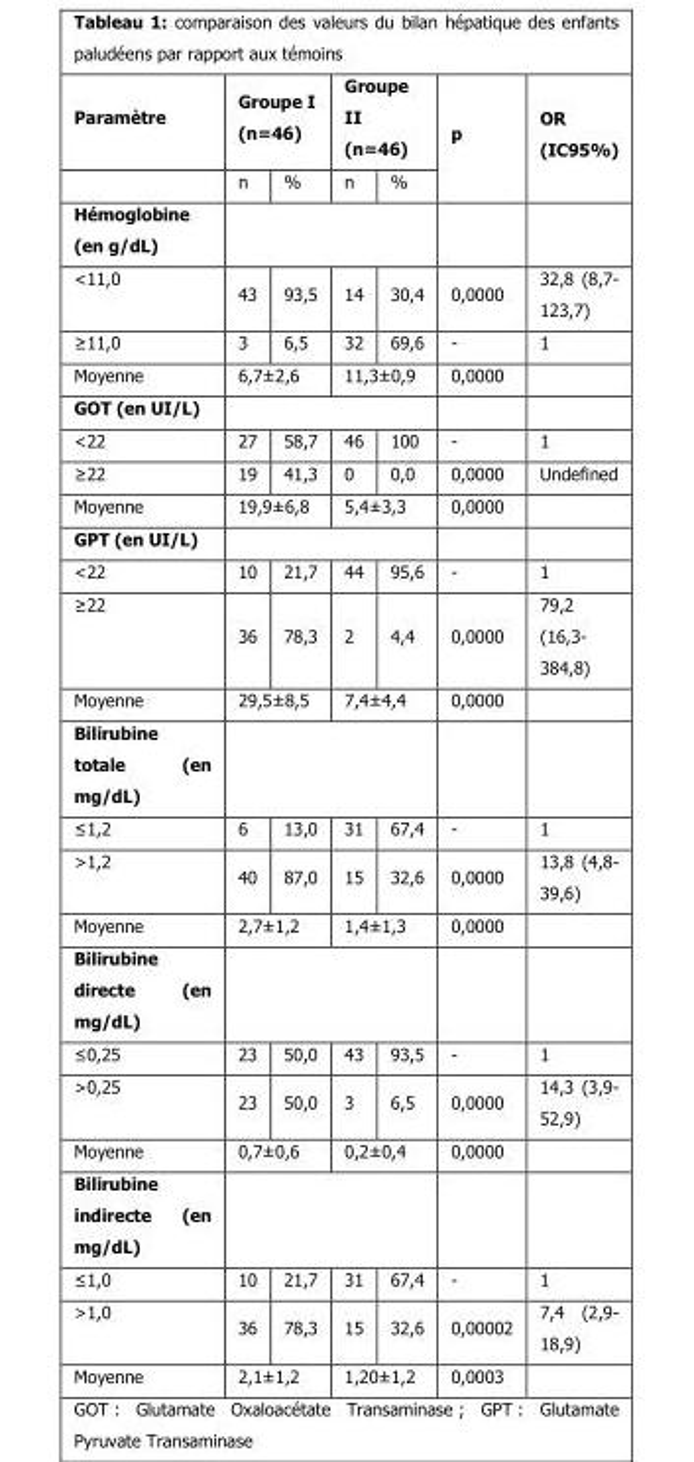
<table><thead><tr><td rowspan="2">Paramètre</td><td colspan="2">Groupe I (n=46)</td><td colspan="2">Groupe II (n=46)</td><td rowspan="2">p</td><td rowspan="2">OR (IC95%)</td></tr><tr><td>n</td><td>%</td><td>n</td><td>%</td></tr></thead><tbody><tr><td colspan="7">Hémoglobine (en g/dL)</td></tr><tr><td>&lt;11,0</td><td>43</td><td>93,5</td><td>14</td><td>30,4</td><td>0,0000</td><td>32,8 (8,7- 123,7)</td></tr><tr><td>≥11,0</td><td>3</td><td>6,5</td><td>32</td><td>69,6</td><td>-</td><td>1</td></tr><tr><td>Moyenne</td><td colspan="2">6,7±2,6</td><td colspan="2">11,3±0,9</td><td>0,0000</td><td></td></tr><tr><td colspan="7">GOT (en UI/L)</td></tr><tr><td>&lt;22</td><td>27</td><td>58,7</td><td>46</td><td>100</td><td>-</td><td>1</td></tr><tr><td>≥22</td><td>19</td><td>41,3</td><td>0</td><td>0,0</td><td>0,0000</td><td>Undefined</td></tr><tr><td>Moyenne</td><td colspan="2">19,9±6,8</td><td colspan="2">5,4±3,3</td><td>0,0000</td><td></td></tr><tr><td colspan="7">GPT (en UI/L)</td></tr><tr><td>&lt;22</td><td>10</td><td>21,7</td><td>44</td><td>95,6</td><td>-</td><td>1</td></tr><tr><td>≥22</td><td>36</td><td>78,3</td><td>2</td><td>4,4</td><td>0,0000</td><td>79,2 (16,3- 384,8)</td></tr><tr><td>Moyenne</td><td colspan="2">29,5±8,5</td><td colspan="2">7,4±4,4</td><td>0,0000</td><td></td></tr><tr><td colspan="7">Bilirubine totale (en mg/dL)</td></tr><tr><td>≤1,2</td><td>6</td><td>13,0</td><td>31</td><td>67,4</td><td>-</td><td>1</td></tr><tr><td>&gt;1,2</td><td>40</td><td>87,0</td><td>15</td><td>32,6</td><td>0,0000</td><td>13,8 (4,8- 39,6)</td></tr><tr><td>Moyenne</td><td colspan="2">2,7±1,2</td><td colspan="2">1,4±1,3</td><td>0,0000</td><td></td></tr><tr><td colspan="7">Bilirubine directe (en mg/dL)</td></tr><tr><td>≤0,25</td><td>23</td><td>50,0</td><td>43</td><td>93,5</td><td>-</td><td>1</td></tr><tr><td>&gt;0,25</td><td>23</td><td>50,0</td><td>3</td><td>6,5</td><td>0,0000</td><td>14,3 (3,9- 52,9)</td></tr><tr><td>Moyenne</td><td colspan="2">0,7±0,6</td><td colspan="2">0,2±0,4</td><td>0,0000</td><td></td></tr><tr><td colspan="7">Bilirubine indirecte (en mg/dL)</td></tr><tr><td>≤1,0</td><td>10</td><td>21,7</td><td>31</td><td>67,4</td><td>-</td><td>1</td></tr><tr><td>&gt;1,0</td><td>36</td><td>78,3</td><td>15</td><td>32,6</td><td>0,00002</td><td>7,4 (2,9- 18,9)</td></tr><tr><td>Moyenne</td><td colspan="2">2,1±1,2</td><td colspan="2">1,20±1,2</td><td>0,0003</td><td></td></tr></tbody></table>